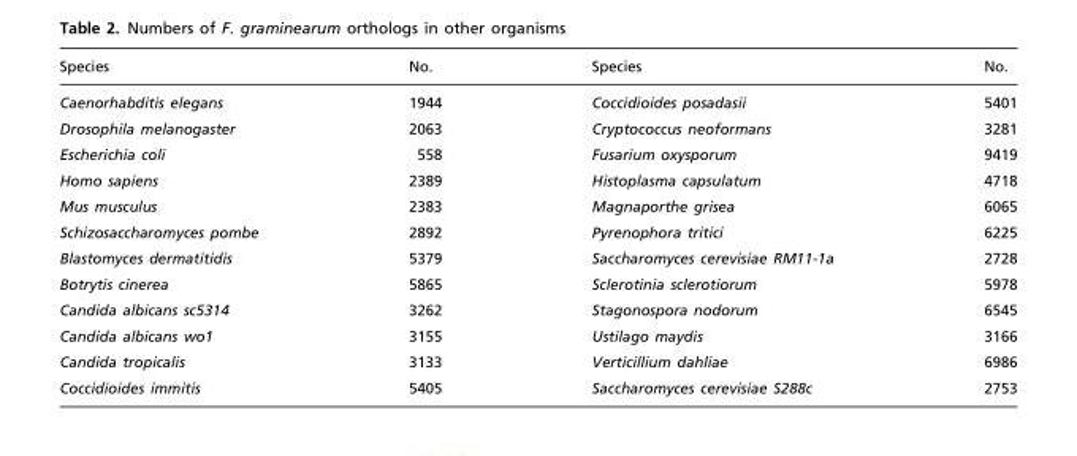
<table><thead><tr><td>Species</td><td>No.</td><td>Species</td><td>No.</td></tr></thead><tbody><tr><td>Caenorhabditis elegans</td><td>1944</td><td>Coccidioides posadasii</td><td>5401</td></tr><tr><td>Drosophila melanogaster</td><td>2063</td><td>Cryptococcus neoformans</td><td>3281</td></tr><tr><td>Escherichia coli</td><td>558</td><td>Fusarium oxysporum</td><td>9419</td></tr><tr><td>Homo sapiens</td><td>2389</td><td>Histoplasma capsulatum</td><td>4718</td></tr><tr><td>Mus musculus</td><td>2383</td><td>Magnaporthe grisea</td><td>6065</td></tr><tr><td>Schizosaccharomyces pombe</td><td>2892</td><td>Pyrenophora tritici</td><td>6225</td></tr><tr><td>Blastomyces dermatitidis</td><td>5379</td><td>Saccharomyces cerevisiae RM11-1a</td><td>2728</td></tr><tr><td>Botrytis cinerea</td><td>5865</td><td>Sclerotinia sclerotiorum</td><td>5978</td></tr><tr><td>Candida albicans sc5314</td><td>3262</td><td>Stagonospora nodorum</td><td>6545</td></tr><tr><td>Candida albicans wo1</td><td>3155</td><td>Ustilago maydis</td><td>3166</td></tr><tr><td>Candida tropicalis</td><td>3133</td><td>Verticillium dahliae</td><td>6986</td></tr><tr><td>Coccidioides immitis</td><td>5405</td><td>Saccharomyces cerevisiae S288c</td><td>2753</td></tr></tbody></table>